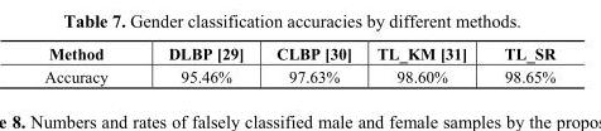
<table><thead><tr><td>Method</td><td>DLBP [29]</td><td>CLBP [30]</td><td>TL_KM [31]</td><td>TL_SR</td></tr></thead><tbody><tr><td>Accuracy</td><td>95.46%</td><td>97.63%</td><td>98.60%</td><td>98.65%</td></tr></tbody></table>